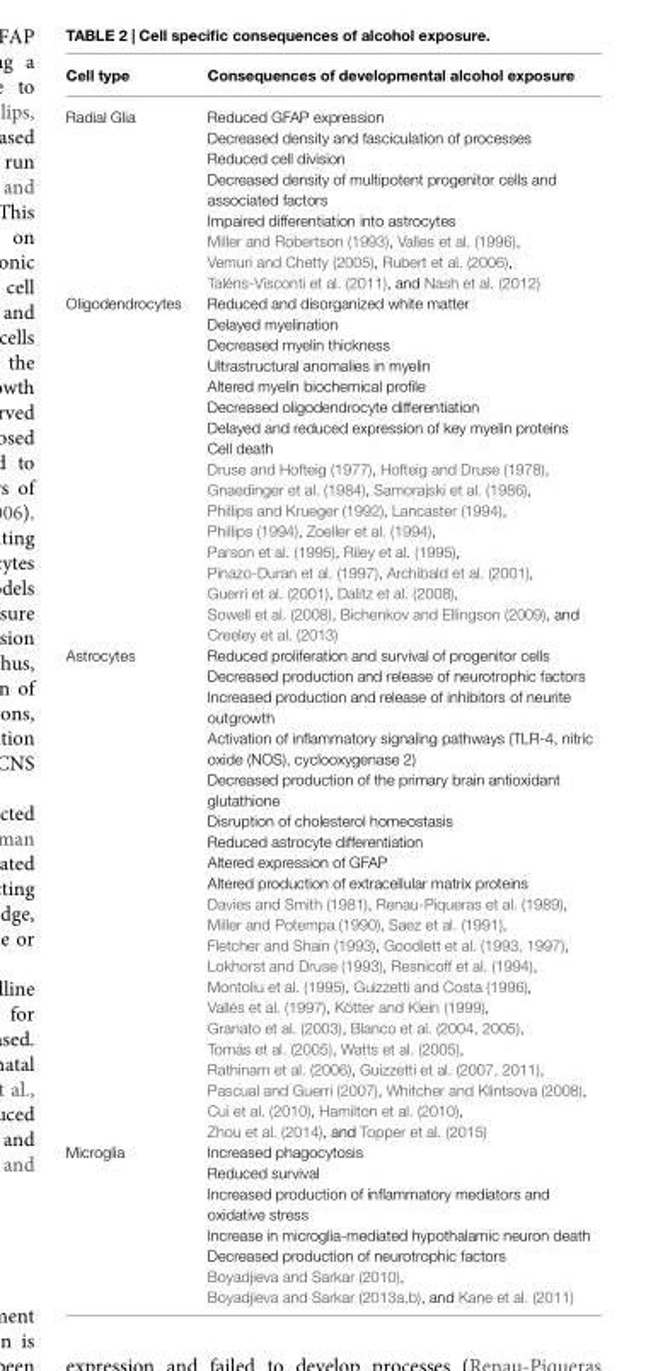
<table><thead><tr><td>Cell type</td><td>Consequences of developmental alcohol exposure</td></tr></thead><tbody><tr><td>Radial Glia</td><td>Reduced GFAP expression Decreased density and fasciculation of processes Reduced cell division Decreased density of multipotent progenitor cells and associated factors Impaired differentiation into astrocytes Miller and Robertson (1993), Valles et al. (1996), Vemuri and Chetty (2005), Rubert et al. (2006), Taléns-Visconti et al. (2011), and Nash et al. (2012)</td></tr><tr><td>Oligodendrocytes</td><td>Reduced and disorganized white matter Delayed myelination Decreased myelin thickness Ultrastructural anomalies in myelin Altered myelin biochemical profile Decreased oligodendrocyte differentiation Delayed and reduced expression of key myelin proteins Cell death Druse and Hofteig (1977), Hofteig and Druse (1978), Gnaedinger et al. (1984), Samorajski et al. (1986), Phillips and Krueger (1992), Lancaster (1994), Phillips (1994), Zoeller et al. (1994), Parson et al. (1995), Riley et al. (1995), Pinazo-Duran et al. (1997), Archibald et al. (2001), Guerri et al. (2001), Dalitz et al. (2008), Sowell et al. (2008), Bichenkov and Ellingson (2009), and Creeley et al. (2013)</td></tr><tr><td>Astrocytes</td><td>Reduced proliferation and survival of progenitor cells Decreased production and release of neurotrophic factors Increased production and release of inhibitors of neurite outgrowth Activation of inflammatory signaling pathways (TLR-4, nitric oxide (NOS), cyclooxygenase 2) Decreased production of the primary brain antioxidant glutathione Disruption of cholesterol homeostasis Reduced astrocyte differentiation Altered expression of GFAP Altered production of extracellular matrix proteins Davies and Smith (1981), Renau-Piqueras et al. (1989), Miller and Potempa (1990), Saez et al. (1991), Fletcher and Shain (1993), Goodlett et al. (1993, 1997), Lokhorst and Druse (1993), Resnicoff et al. (1994), Montoliu et al. (1995), Guizzetti and Costa (1996), Vallés et al. (1997), Kötter and Klein (1999), Granato et al. (2003), Blanco et al. (2004, 2005), Tomás et al. (2005), Watts et al. (2005), Rathinam et al. (2006), Guizzetti et al. (2007, 2011), Pascual and Guerri (2007), Whitcher and Klintsova (2008), Cui et al. (2010), Hamilton et al. (2010), Zhou et al. (2014), and Topper et al. (2015)</td></tr><tr><td>Microglia</td><td>Increased phagocytosis Reduced survival Increased production of inflammatory mediators and oxidative stress Increase in microglia-mediated hypothalamic neuron death Decreased production of neurotrophic factors Boyadjieva and Sarkar (2010), Boyadjieva and Sarkar (2013a,b), and Kane et al. (2011)</td></tr></tbody></table>